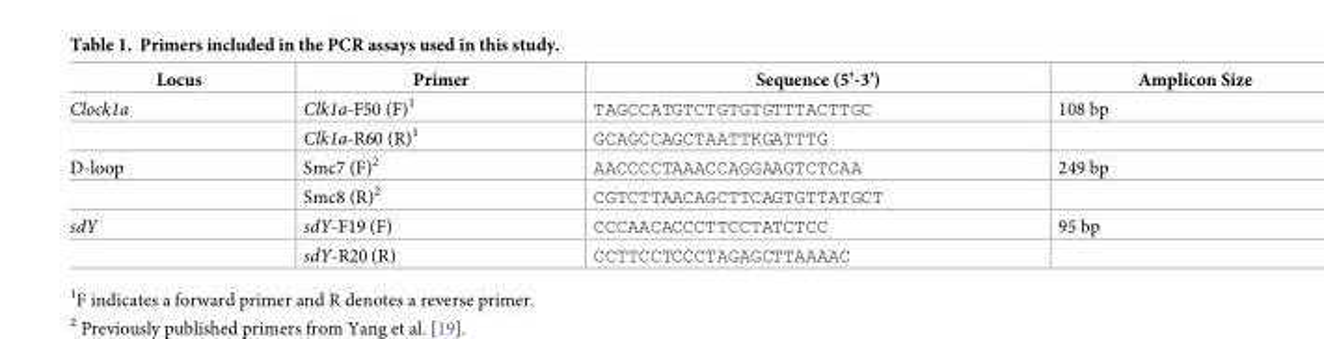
<table><thead><tr><td>Locus</td><td>Primer</td><td>Sequence (5’-3’)</td><td>Amplicon Size</td></tr></thead><tbody><tr><td rowspan="2">Clock1a</td><td>Clk1a-F50 (F)<sup>1</sup></td><td>TAGCCATGTCTGTGTGTTTACTTGC</td><td>108 bp</td></tr><tr><td>Clk1a-R60 (R)<sup>1</sup></td><td>GCAGCCAGCTAATTKGATTTG</td><td></td></tr><tr><td rowspan="2">D-loop</td><td>Smc7 (F)<sup>2</sup></td><td>AACCCCTAAACCAGGAAGTCTCAA</td><td>249 bp</td></tr><tr><td>Smc8 (R)<sup>2</sup></td><td>CGTCTTAACAGCTTCAGTGTTATGCT</td><td></td></tr><tr><td rowspan="2">sdY</td><td>sdY-F19 (F)</td><td>CCCAACACCCTTCCTATCTCC</td><td>95 bp</td></tr><tr><td>sdY-R20 (R)</td><td>CCTTCCTCCCTAGAGCTTAAAAC</td><td></td></tr></tbody></table>